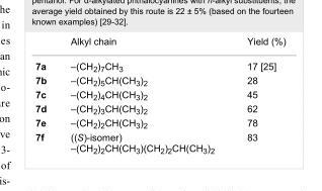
<table><thead><tr><td></td><td>Alkyl chain</td><td>Yield (%)</td></tr></thead><tbody><tr><td>7a</td><td>–(CH<sub>2</sub>)<sub>7</sub>CH<sub>3</sub></td><td>17 [25]</td></tr><tr><td>7b</td><td>–(CH<sub>2</sub>)<sub>5</sub>CH(CH<sub>3</sub>)<sub>2</sub></td><td>28</td></tr><tr><td>7c</td><td>–(CH<sub>2</sub>)<sub>4</sub>CH(CH<sub>3</sub>)<sub>2</sub></td><td>45</td></tr><tr><td>7d</td><td>–(CH<sub>2</sub>)<sub>3</sub>CH(CH<sub>3</sub>)<sub>2</sub></td><td>62</td></tr><tr><td>7e</td><td>–(CH<sub>2</sub>)<sub>2</sub>CH(CH<sub>3</sub>)<sub>2</sub></td><td>78</td></tr><tr><td>7f</td><td>((S)-isomer) –(CH<sub>2</sub>)<sub>2</sub>CH(CH<sub>3</sub>)(CH<sub>2</sub>)<sub>2</sub>CH(CH<sub>3</sub>)<sub>2</sub></td><td>83</td></tr></tbody></table>